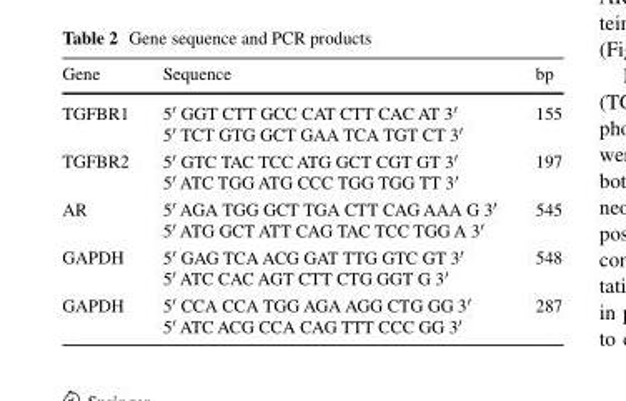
<table><thead><tr><td>Gene</td><td>Sequence</td><td>bp</td></tr></thead><tbody><tr><td>TGFBR1</td><td>5′ GGT CTT GCC CAT CTT CAC AT 3′ 5′ TCT GTG GCT GAA TCA TGT CT 3′</td><td>155</td></tr><tr><td>TGFBR2</td><td>5′ GTC TAC TCC ATG GCT CGT GT 3′ 5′ ATC TGG ATG CCC TGG TGG TT 3′</td><td>197</td></tr><tr><td>AR</td><td>5′ AGA TGG GCT TGA CTT CAG AAA G 3′ 5′ ATG GCT ATT CAG TAC TCC TGG A 3′</td><td>545</td></tr><tr><td>GAPDH</td><td>5′ GAG TCA ACG GAT TTG GTC GT 3′ 5′ ATC CAC AGT CTT CTG GGT G 3′</td><td>548</td></tr><tr><td>GAPDH</td><td>5′ CCA CCA TGG AGA AGG CTG GG 3′ 5′ ATC ACG CCA CAG TTT CCC GG 3′</td><td>287</td></tr></tbody></table>